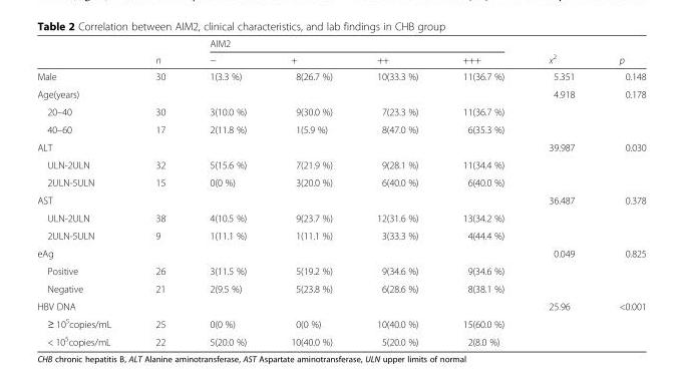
<table><thead><tr><td rowspan="2"></td><td rowspan="2">n</td><td colspan="4">AIM2</td><td rowspan="2">x<sup>2</sup></td><td rowspan="2">p</td></tr><tr><td>−</td><td>+</td><td>++</td><td>+++</td></tr></thead><tbody><tr><td>Male</td><td>30</td><td>1(3.3 %)</td><td>8(26.7 %)</td><td>10(33.3 %)</td><td>11(36.7 %)</td><td>5.351</td><td>0.148</td></tr><tr><td>Age(years)</td><td></td><td></td><td></td><td></td><td></td><td>4.918</td><td>0.178</td></tr><tr><td>20–40</td><td>30</td><td>3(10.0 %)</td><td>9(30.0 %)</td><td>7(23.3 %)</td><td>11(36.7 %)</td><td></td><td></td></tr><tr><td>40–60</td><td>17</td><td>2(11.8 %)</td><td>1(5.9 %)</td><td>8(47.0 %)</td><td>6(35.3 %)</td><td></td><td></td></tr><tr><td>ALT</td><td></td><td></td><td></td><td></td><td></td><td>39.987</td><td>0.030</td></tr><tr><td>ULN-2ULN</td><td>32</td><td>5(15.6 %)</td><td>7(21.9 %)</td><td>9(28.1 %)</td><td>11(34.4 %)</td><td></td><td></td></tr><tr><td>2ULN-5ULN</td><td>15</td><td>0(0 %)</td><td>3(20.0 %)</td><td>6(40.0 %)</td><td>6(40.0 %)</td><td></td><td></td></tr><tr><td>AST</td><td></td><td></td><td></td><td></td><td></td><td>36.487</td><td>0.378</td></tr><tr><td>ULN-2ULN</td><td>38</td><td>4(10.5 %)</td><td>9(23.7 %)</td><td>12(31.6 %)</td><td>13(34.2 %)</td><td></td><td></td></tr><tr><td>2ULN-5ULN</td><td>9</td><td>1(11.1 %)</td><td>1(11.1 %)</td><td>3(33.3 %)</td><td>4(44.4 %)</td><td></td><td></td></tr><tr><td>eAg</td><td></td><td></td><td></td><td></td><td></td><td>0.049</td><td>0.825</td></tr><tr><td>Positive</td><td>26</td><td>3(11.5 %)</td><td>5(19.2 %)</td><td>9(34.6 %)</td><td>9(34.6 %)</td><td></td><td></td></tr><tr><td>Negative</td><td>21</td><td>2(9.5 %)</td><td>5(23.8 %)</td><td>6(28.6 %)</td><td>8(38.1 %)</td><td></td><td></td></tr><tr><td>HBV DNA</td><td></td><td></td><td></td><td></td><td></td><td>25.96</td><td>&lt;0.001</td></tr><tr><td>≥ 10<sup>5</sup>copies/mL</td><td>25</td><td>0(0 %)</td><td>0(0 %)</td><td>10(40.0 %)</td><td>15(60.0 %)</td><td></td><td></td></tr><tr><td>&lt; 10<sup>5</sup>copies/mL</td><td>22</td><td>5(20.0 %)</td><td>10(40.0 %)</td><td>5(20.0 %)</td><td>2(8.0 %)</td><td></td><td></td></tr></tbody></table>